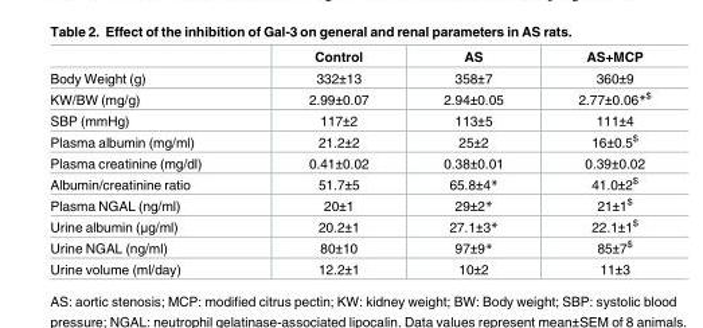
<table><thead><tr><td></td><td>Control</td><td>AS</td><td>AS+MCP</td></tr></thead><tbody><tr><td>Body Weight (g)</td><td>332±13</td><td>358±7</td><td>360±9</td></tr><tr><td>KW/BW (mg/g)</td><td>2.99±0.07</td><td>2.94±0.05</td><td>2.77±0.06*<sup>$</sup></td></tr><tr><td>SBP (mmHg)</td><td>117±2</td><td>113±5</td><td>111±4</td></tr><tr><td>Plasma albumin (mg/ml)</td><td>21.2±2</td><td>25±2</td><td>16±0.5<sup>$</sup></td></tr><tr><td>Plasma creatinine (mg/dl)</td><td>0.41±0.02</td><td>0.38±0.01</td><td>0.39±0.02</td></tr><tr><td>Albumin/creatinine ratio</td><td>51.7±5</td><td>65.8±4*</td><td>41.0±2<sup>$</sup></td></tr><tr><td>Plasma NGAL (ng/ml)</td><td>20±1</td><td>29±2*</td><td>21±1<sup>$</sup></td></tr><tr><td>Urine albumin (μg/ml)</td><td>20.2±1</td><td>27.1±3*</td><td>22.1±1<sup>$</sup></td></tr><tr><td>Urine NGAL (ng/ml)</td><td>80±10</td><td>97±9*</td><td>85±7<sup>$</sup></td></tr><tr><td>Urine volume (ml/day)</td><td>12.2±1</td><td>10±2</td><td>11±3</td></tr></tbody></table>